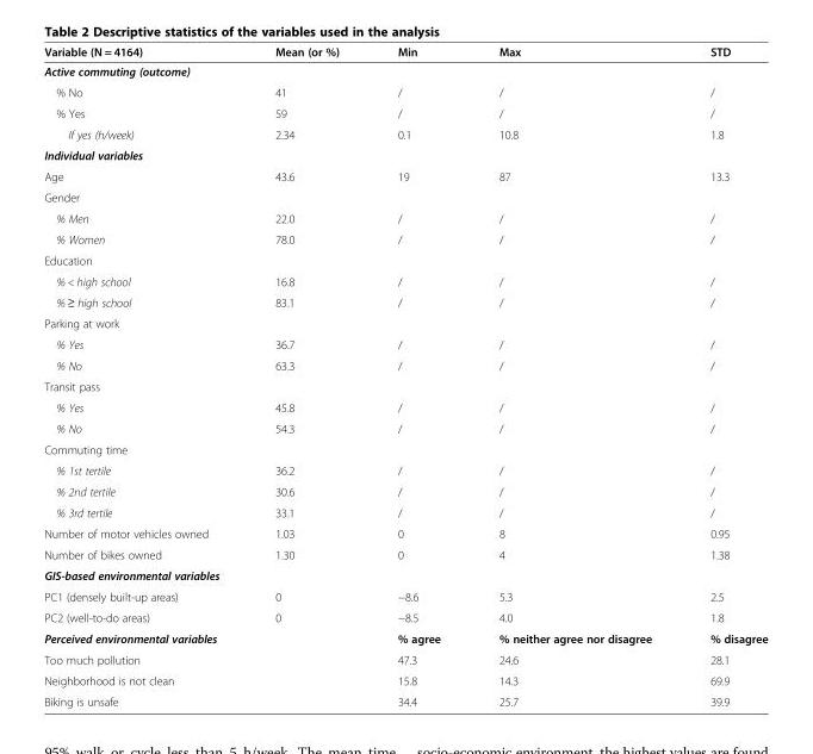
<table><thead><tr><td>Variable (N = 4164)</td><td>Mean (or %)</td><td>Min</td><td>Max</td><td>STD</td></tr></thead><tbody><tr><td colspan="5">Active commuting (outcome)</td></tr><tr><td>% No</td><td>41</td><td>/</td><td>/</td><td>/</td></tr><tr><td>% Yes</td><td>59</td><td>/</td><td>/</td><td>/</td></tr><tr><td>If yes (h/week)</td><td>2.34</td><td>0.1</td><td>10.8</td><td>1.8</td></tr><tr><td colspan="5">Individual variables</td></tr><tr><td>Age</td><td>43.6</td><td>19</td><td>87</td><td>13.3</td></tr><tr><td colspan="5">Gender</td></tr><tr><td>% Men</td><td>22.0</td><td>/</td><td>/</td><td>/</td></tr><tr><td>% Women</td><td>78.0</td><td>/</td><td>/</td><td>/</td></tr><tr><td colspan="5">Education</td></tr><tr><td>% &lt; high school</td><td>16.8</td><td>/</td><td>/</td><td>/</td></tr><tr><td>% ≥ high school</td><td>83.1</td><td>/</td><td>/</td><td>/</td></tr><tr><td colspan="5">Parking at work</td></tr><tr><td>% Yes</td><td>36.7</td><td>/</td><td>/</td><td>/</td></tr><tr><td>% No</td><td>63.3</td><td>/</td><td>/</td><td>/</td></tr><tr><td colspan="5">Transit pass</td></tr><tr><td>% Yes</td><td>45.8</td><td>/</td><td>/</td><td>/</td></tr><tr><td>% No</td><td>54.3</td><td>/</td><td>/</td><td>/</td></tr><tr><td colspan="5">Commuting time</td></tr><tr><td>% 1st tertile</td><td>36.2</td><td>/</td><td>/</td><td>/</td></tr><tr><td>% 2nd tertile</td><td>30.6</td><td>/</td><td>/</td><td>/</td></tr><tr><td>% 3rd tertile</td><td>33.1</td><td>/</td><td>/</td><td>/</td></tr><tr><td>Number of motor vehicles owned</td><td>1.03</td><td>0</td><td>8</td><td>0.95</td></tr><tr><td>Number of bikes owned</td><td>1.30</td><td>0</td><td>4</td><td>1.38</td></tr><tr><td colspan="5">GIS-based environmental variables</td></tr><tr><td>PC1 (densely built-up areas)</td><td>0</td><td>−8.6</td><td>5.3</td><td>2.5</td></tr><tr><td>PC2 (well-to-do areas)</td><td>0</td><td>−8.5</td><td>4.0</td><td>1.8</td></tr><tr><td>Perceived environmental variables</td><td></td><td>% agree</td><td>% neither agree nor disagree</td><td>% disagree</td></tr><tr><td>Too much pollution</td><td></td><td>47.3</td><td>24.6</td><td>28.1</td></tr><tr><td>Neighborhood is not clean</td><td></td><td>15.8</td><td>14.3</td><td>69.9</td></tr><tr><td>Biking is unsafe</td><td></td><td>34.4</td><td>25.7</td><td>39.9</td></tr></tbody></table>